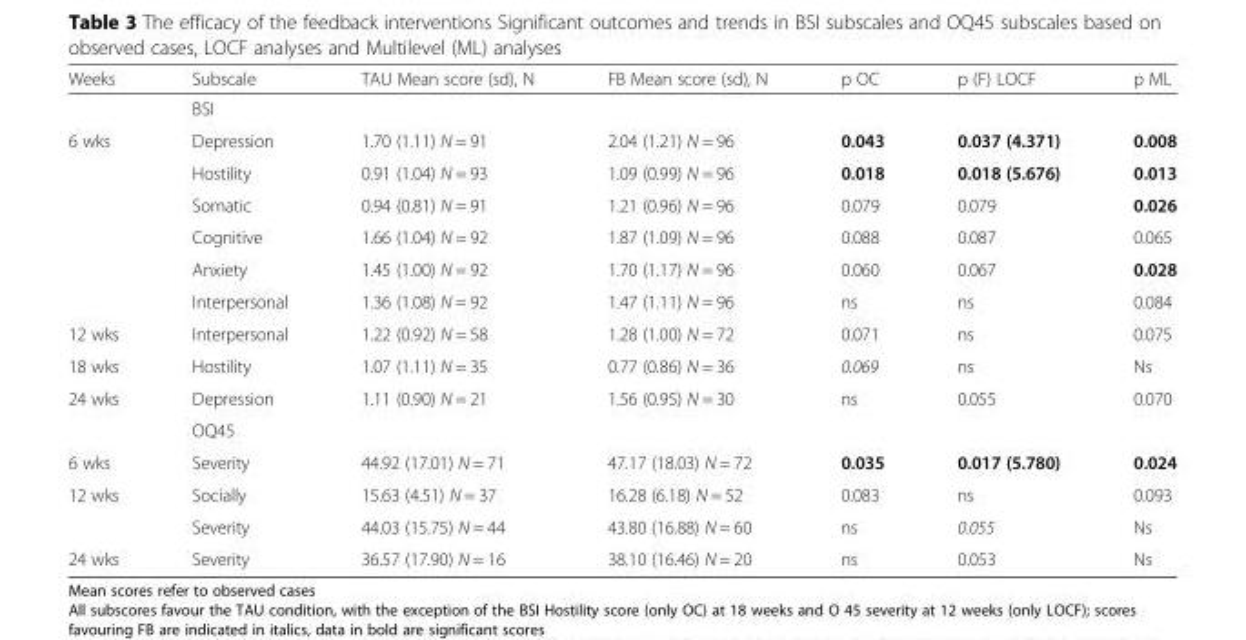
<table><thead><tr><td>Weeks</td><td>Subscale</td><td>TAU Mean score (sd), N</td><td>FB Mean score (sd), N</td><td>p OC</td><td>p (F) LOCF</td><td>p ML</td></tr></thead><tbody><tr><td></td><td colspan="6">BSI</td></tr><tr><td rowspan="6">6 wks</td><td>Depression</td><td>1.70 (1.11) N = 91</td><td>2.04 (1.21) N = 96</td><td>0.043</td><td>0.037 (4.371)</td><td>0.008</td></tr><tr><td>Hostility</td><td>0.91 (1.04) N = 93</td><td>1.09 (0.99) N = 96</td><td>0.018</td><td>0.018 (5.676)</td><td>0.013</td></tr><tr><td>Somatic</td><td>0.94 (0.81) N = 91</td><td>1.21 (0.96) N = 96</td><td>0.079</td><td>0.079</td><td>0.026</td></tr><tr><td>Cognitive</td><td>1.66 (1.04) N = 92</td><td>1.87 (1.09) N = 96</td><td>0.088</td><td>0.087</td><td>0.065</td></tr><tr><td>Anxiety</td><td>1.45 (1.00) N = 92</td><td>1.70 (1.17) N = 96</td><td>0.060</td><td>0.067</td><td>0.028</td></tr><tr><td>Interpersonal</td><td>1.36 (1.08) N = 92</td><td>1.47 (1.11) N = 96</td><td>ns</td><td>ns</td><td>0.084</td></tr><tr><td>12 wks</td><td>Interpersonal</td><td>1.22 (0.92) N = 58</td><td>1.28 (1.00) N = 72</td><td>0.071</td><td>ns</td><td>0.075</td></tr><tr><td>18 wks</td><td>Hostility</td><td>1.07 (1.11) N = 35</td><td>0.77 (0.86) N = 36</td><td>0.069</td><td>ns</td><td>Ns</td></tr><tr><td rowspan="2">24 wks</td><td>Depression</td><td>1.11 (0.90) N = 21</td><td>1.56 (0.95) N = 30</td><td>ns</td><td>0.055</td><td>0.070</td></tr><tr><td colspan="6">OQ45</td></tr><tr><td>6 wks</td><td>Severity</td><td>44.92 (17.01) N = 71</td><td>47.17 (18.03) N = 72</td><td>0.035</td><td>0.017 (5.780)</td><td>0.024</td></tr><tr><td rowspan="2">12 wks</td><td>Socially</td><td>15.63 (4.51) N = 37</td><td>16.28 (6.18) N = 52</td><td>0.083</td><td>ns</td><td>0.093</td></tr><tr><td>Severity</td><td>44.03 (15.75) N = 44</td><td>43.80 (16.88) N = 60</td><td>ns</td><td>0.055</td><td>Ns</td></tr><tr><td>24 wks</td><td>Severity</td><td>36.57 (17.90) N = 16</td><td>38.10 (16.46) N = 20</td><td>ns</td><td>0.053</td><td>Ns</td></tr></tbody></table>